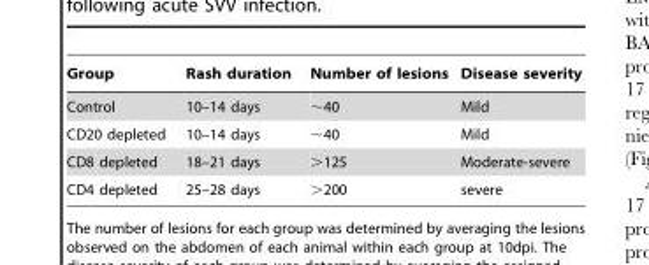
<table><thead><tr><td>Group</td><td>Rash duration</td><td>Number of lesions</td><td>Disease severity</td></tr></thead><tbody><tr><td>Control</td><td>10–14 days</td><td>∼40</td><td>Mild</td></tr><tr><td>CD20 depleted</td><td>10–14 days</td><td>∼40</td><td>Mild</td></tr><tr><td>CD8 depleted</td><td>18–21 days</td><td>&gt;125</td><td>Moderate-severe</td></tr><tr><td>CD4 depleted</td><td>25–28 days</td><td>&gt;200</td><td>severe</td></tr></tbody></table>